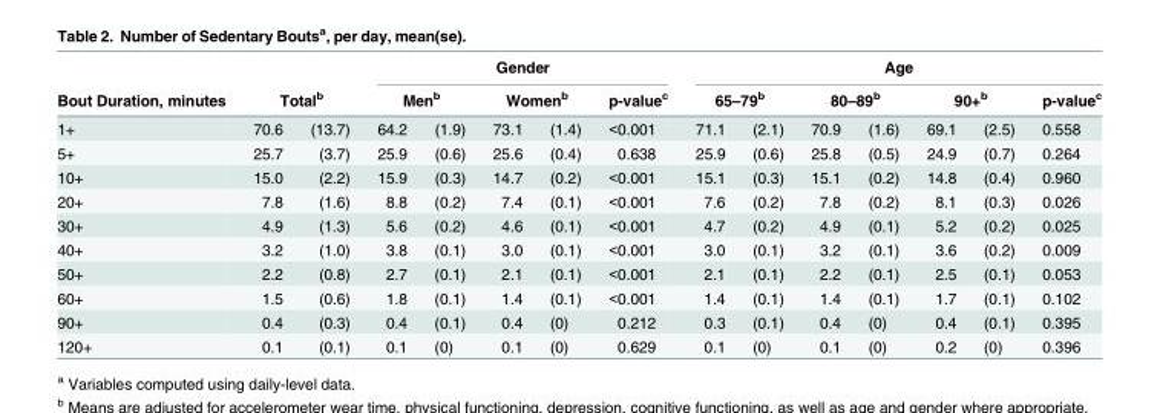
<table><thead><tr><td rowspan="3">Bout Duration, minutes 1+</td><td></td><td></td><td colspan="5">Gender</td><td colspan="7">Age</td></tr><tr><td colspan="2">Total<sup>b</sup></td><td colspan="2">Men<sup>b</sup></td><td colspan="2">Women<sup>b</sup></td><td rowspan="2">p-value<sup>c</sup> &lt;0.001</td><td colspan="2">65–79<sup>b</sup></td><td colspan="2">80–89<sup>b</sup></td><td colspan="2">90+<sup>b</sup></td><td rowspan="2">p-value<sup>c</sup> 0.558</td></tr><tr><td>70.6</td><td>(13.7)</td><td>64.2</td><td>(1.9)</td><td>73.1</td><td>(1.4)</td><td>71.1</td><td>(2.1)</td><td>70.9</td><td>(1.6)</td><td>69.1</td><td>(2.5)</td></tr></thead><tbody><tr><td>5+</td><td>25.7</td><td>(3.7)</td><td>25.9</td><td>(0.6)</td><td>25.6</td><td>(0.4)</td><td>0.638</td><td>25.9</td><td>(0.6)</td><td>25.8</td><td>(0.5)</td><td>24.9</td><td>(0.7)</td><td>0.264</td></tr><tr><td>10+</td><td>15.0</td><td>(2.2)</td><td>15.9</td><td>(0.3)</td><td>14.7</td><td>(0.2)</td><td>&lt;0.001</td><td>15.1</td><td>(0.3)</td><td>15.1</td><td>(0.2)</td><td>14.8</td><td>(0.4)</td><td>0.960</td></tr><tr><td>20+</td><td>7.8</td><td>(1.6)</td><td>8.8</td><td>(0.2)</td><td>7.4</td><td>(0.1)</td><td>&lt;0.001</td><td>7.6</td><td>(0.2)</td><td>7.8</td><td>(0.2)</td><td>8.1</td><td>(0.3)</td><td>0.026</td></tr><tr><td>30+</td><td>4.9</td><td>(1.3)</td><td>5.6</td><td>(0.2)</td><td>4.6</td><td>(0.1)</td><td>&lt;0.001</td><td>4.7</td><td>(0.2)</td><td>4.9</td><td>(0.1)</td><td>5.2</td><td>(0.2)</td><td>0.025</td></tr><tr><td>40+</td><td>3.2</td><td>(1.0)</td><td>3.8</td><td>(0.1)</td><td>3.0</td><td>(0.1)</td><td>&lt;0.001</td><td>3.0</td><td>(0.1)</td><td>3.2</td><td>(0.1)</td><td>3.6</td><td>(0.2)</td><td>0.009</td></tr><tr><td>50+</td><td>2.2</td><td>(0.8)</td><td>2.7</td><td>(0.1)</td><td>2.1</td><td>(0.1)</td><td>&lt;0.001</td><td>2.1</td><td>(0.1)</td><td>2.2</td><td>(0.1)</td><td>2.5</td><td>(0.1)</td><td>0.053</td></tr><tr><td>60+</td><td>1.5</td><td>(0.6)</td><td>1.8</td><td>(0.1)</td><td>1.4</td><td>(0.1)</td><td>&lt;0.001</td><td>1.4</td><td>(0.1)</td><td>1.4</td><td>(0.1)</td><td>1.7</td><td>(0.1)</td><td>0.102</td></tr><tr><td>90+</td><td>0.4</td><td>(0.3)</td><td>0.4</td><td>(0.1)</td><td>0.4</td><td>(0)</td><td>0.212</td><td>0.3</td><td>(0.1)</td><td>0.4</td><td>(0)</td><td>0.4</td><td>(0.1)</td><td>0.395</td></tr><tr><td>120+</td><td>0.1</td><td>(0.1)</td><td>0.1</td><td>(0)</td><td>0.1</td><td>(0)</td><td>0.629</td><td>0.1</td><td>(0)</td><td>0.1</td><td>(0)</td><td>0.2</td><td>(0)</td><td>0.396</td></tr></tbody></table>